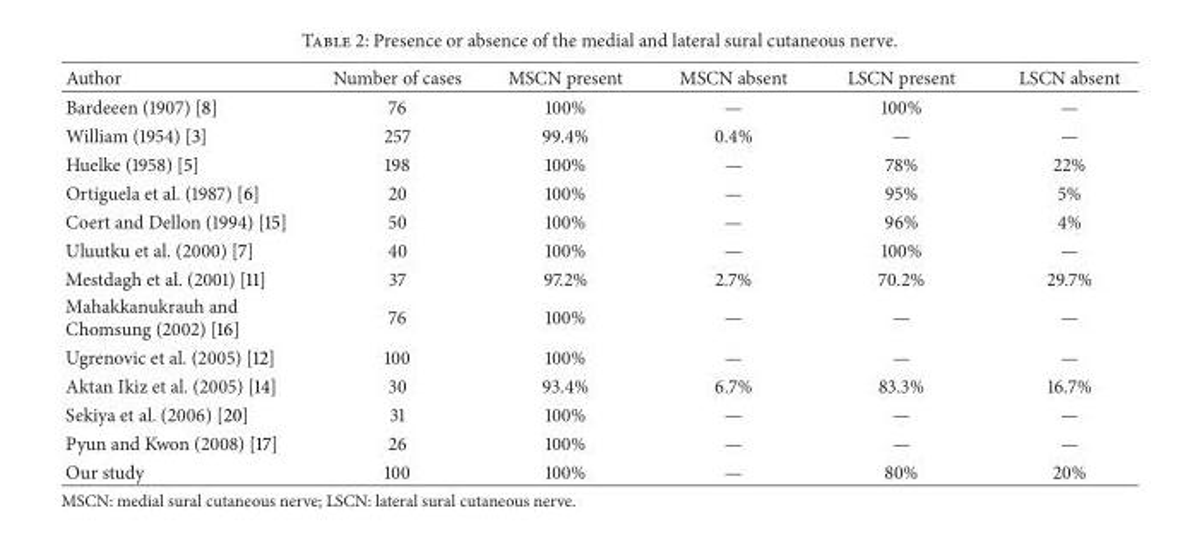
<table><thead><tr><td>Author</td><td>Number of cases</td><td>MSCN present</td><td>MSCN absent</td><td>LSCN present</td><td>LSCN absent</td></tr></thead><tbody><tr><td>Bardeeen (1907) [8]</td><td>76</td><td>100%</td><td>—</td><td>100%</td><td>—</td></tr><tr><td>William (1954) [3]</td><td>257</td><td>99.4%</td><td>0.4%</td><td>—</td><td>—</td></tr><tr><td>Huelke (1958) [5]</td><td>198</td><td>100%</td><td>—</td><td>78%</td><td>22%</td></tr><tr><td>Ortiguela et al. (1987) [6]</td><td>20</td><td>100%</td><td>—</td><td>95%</td><td>5%</td></tr><tr><td>Coert and Dellon (1994) [15]</td><td>50</td><td>100%</td><td>—</td><td>96%</td><td>4%</td></tr><tr><td>Uluutku et al. (2000) [7]</td><td>40</td><td>100%</td><td>—</td><td>100%</td><td>—</td></tr><tr><td>Mestdagh et al. (2001) [11]</td><td>37</td><td>97.2%</td><td>2.7%</td><td>70.2%</td><td>29.7%</td></tr><tr><td>Mahakkanukrauh and Chomsung (2002) [16]</td><td>76</td><td>100%</td><td>—</td><td>—</td><td>—</td></tr><tr><td>Ugrenovic et al. (2005) [12]</td><td>100</td><td>100%</td><td>—</td><td>—</td><td>—</td></tr><tr><td>Aktan Ikiz et al. (2005) [14]</td><td>30</td><td>93.4%</td><td>6.7%</td><td>83.3%</td><td>16.7%</td></tr><tr><td>Sekiya et al. (2006) [20]</td><td>31</td><td>100%</td><td>—</td><td>—</td><td>—</td></tr><tr><td>Pyun and Kwon (2008) [17]</td><td>26</td><td>100%</td><td>—</td><td>—</td><td>—</td></tr><tr><td>Our study</td><td>100</td><td>100%</td><td>—</td><td>80%</td><td>20%</td></tr></tbody></table>